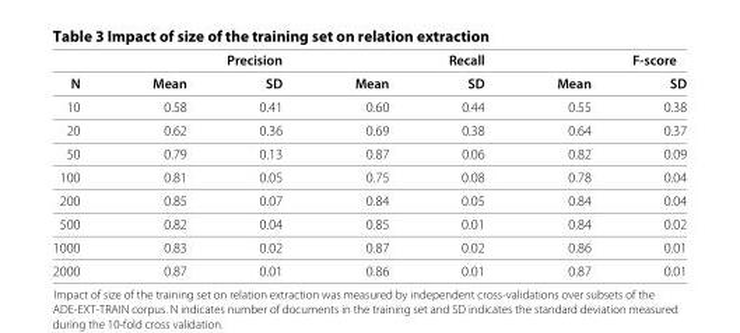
<table><thead><tr><td rowspan="2">N</td><td colspan="2">Precision</td><td colspan="2">Recall</td><td colspan="2">F-score</td></tr><tr><td>Mean</td><td>SD</td><td>Mean</td><td>SD</td><td>Mean</td><td>SD</td></tr></thead><tbody><tr><td>10</td><td>0.58</td><td>0.41</td><td>0.60</td><td>0.44</td><td>0.55</td><td>0.38</td></tr><tr><td>20</td><td>0.62</td><td>0.36</td><td>0.69</td><td>0.38</td><td>0.64</td><td>0.37</td></tr><tr><td>50</td><td>0.79</td><td>0.13</td><td>0.87</td><td>0.06</td><td>0.82</td><td>0.09</td></tr><tr><td>100</td><td>0.81</td><td>0.05</td><td>0.75</td><td>0.08</td><td>0.78</td><td>0.04</td></tr><tr><td>200</td><td>0.85</td><td>0.07</td><td>0.84</td><td>0.05</td><td>0.84</td><td>0.04</td></tr><tr><td>500</td><td>0.82</td><td>0.04</td><td>0.85</td><td>0.01</td><td>0.84</td><td>0.02</td></tr><tr><td>1000</td><td>0.83</td><td>0.02</td><td>0.87</td><td>0.02</td><td>0.86</td><td>0.01</td></tr><tr><td>2000</td><td>0.87</td><td>0.01</td><td>0.86</td><td>0.01</td><td>0.87</td><td>0.01</td></tr></tbody></table>